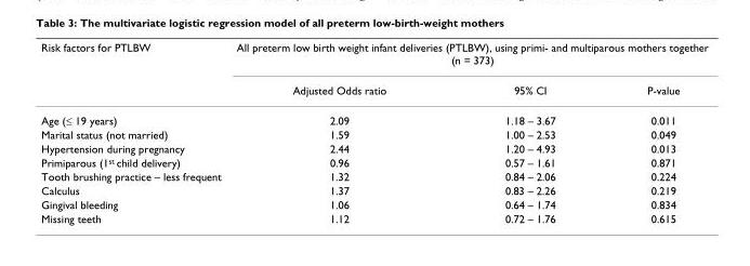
<table><thead><tr><td rowspan="2">Risk factors for PTLBW</td><td colspan="3">All preterm low birth weight infant deliveries (PTLBW), using primi- and multiparous mothers together (n = 373)</td></tr><tr><td>Adjusted Odds ratio</td><td>95% CI</td><td>P-value</td></tr></thead><tbody><tr><td>Age (≤ 19 years)</td><td>2.09</td><td>1.18 – 3.67</td><td>0.011</td></tr><tr><td>Marital status (not married)</td><td>1.59</td><td>1.00 – 2.53</td><td>0.049</td></tr><tr><td>Hypertension during pregnancy</td><td>2.44</td><td>1.20 – 4.93</td><td>0.013</td></tr><tr><td>Primiparous (1<sup>st</sup> child delivery)</td><td>0.96</td><td>0.57 – 1.61</td><td>0.871</td></tr><tr><td>Tooth brushing practice – less frequent</td><td>1.32</td><td>0.84 – 2.06</td><td>0.224</td></tr><tr><td>Calculus</td><td>1.37</td><td>0.83 – 2.26</td><td>0.219</td></tr><tr><td>Gingival bleeding</td><td>1.06</td><td>0.64 – 1.74</td><td>0.834</td></tr><tr><td>Missing teeth</td><td>1.12</td><td>0.72 – 1.76</td><td>0.615</td></tr></tbody></table>